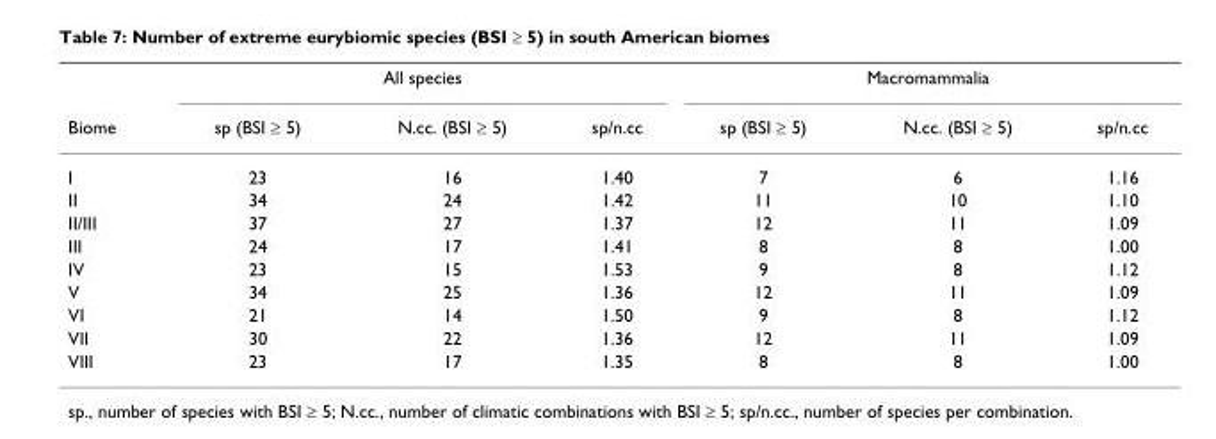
<table><thead><tr><td rowspan="2">Biome</td><td colspan="3">All species</td><td colspan="3">Macromammalia</td></tr><tr><td>sp (BSI ≥ 5)</td><td>N.cc. (BSI ≥ 5)</td><td>sp/n.cc</td><td>sp (BSI ≥ 5)</td><td>N.cc. (BSI ≥ 5)</td><td>sp/n.cc</td></tr></thead><tbody><tr><td>I</td><td>23</td><td>16</td><td>1.40</td><td>7</td><td>6</td><td>1.16</td></tr><tr><td>II</td><td>34</td><td>24</td><td>1.42</td><td>11</td><td>10</td><td>1.10</td></tr><tr><td>II/III</td><td>37</td><td>27</td><td>1.37</td><td>12</td><td>11</td><td>1.09</td></tr><tr><td>III</td><td>24</td><td>17</td><td>1.41</td><td>8</td><td>8</td><td>1.00</td></tr><tr><td>IV</td><td>23</td><td>15</td><td>1.53</td><td>9</td><td>8</td><td>1.12</td></tr><tr><td>V</td><td>34</td><td>25</td><td>1.36</td><td>12</td><td>11</td><td>1.09</td></tr><tr><td>VI</td><td>21</td><td>14</td><td>1.50</td><td>9</td><td>8</td><td>1.12</td></tr><tr><td>VII</td><td>30</td><td>22</td><td>1.36</td><td>12</td><td>11</td><td>1.09</td></tr><tr><td>VIII</td><td>23</td><td>17</td><td>1.35</td><td>8</td><td>8</td><td>1.00</td></tr></tbody></table>